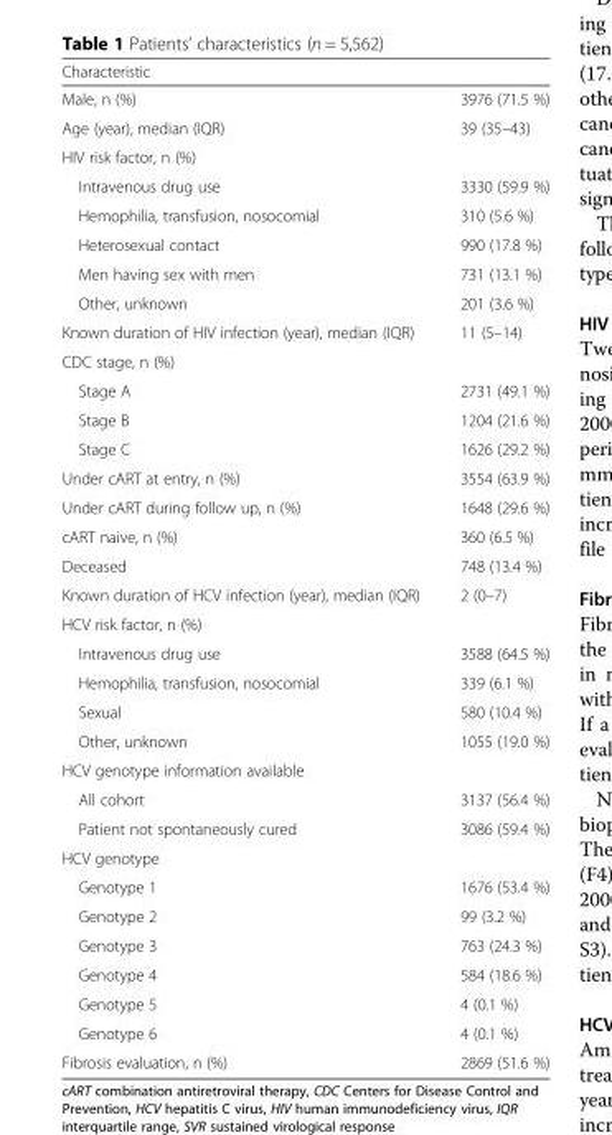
<table><thead><tr><td>Characteristic</td><td></td></tr></thead><tbody><tr><td>Male, n (%)</td><td>3976 (71.5 %)</td></tr><tr><td>Age (year), median (IQR)</td><td>39 (35–43)</td></tr><tr><td colspan="2">HIV risk factor, n (%)</td></tr><tr><td>Intravenous drug use</td><td>3330 (59.9 %)</td></tr><tr><td>Hemophilia, transfusion, nosocomial</td><td>310 (5.6 %)</td></tr><tr><td>Heterosexual contact</td><td>990 (17.8 %)</td></tr><tr><td>Men having sex with men</td><td>731 (13.1 %)</td></tr><tr><td>Other, unknown</td><td>201 (3.6 %)</td></tr><tr><td>Known duration of HIV infection (year), median (IQR)</td><td>11 (5–14)</td></tr><tr><td colspan="2">CDC stage, n (%)</td></tr><tr><td>Stage A</td><td>2731 (49.1 %)</td></tr><tr><td>Stage B</td><td>1204 (21.6 %)</td></tr><tr><td>Stage C</td><td>1626 (29.2 %)</td></tr><tr><td>Under cART at entry, n (%)</td><td>3554 (63.9 %)</td></tr><tr><td>Under cART during follow up, n (%)</td><td>1648 (29.6 %)</td></tr><tr><td>cART naive, n (%)</td><td>360 (6.5 %)</td></tr><tr><td>Deceased</td><td>748 (13.4 %)</td></tr><tr><td>Known duration of HCV infection (year), median (IQR)</td><td>2 (0–7)</td></tr><tr><td colspan="2">HCV risk factor, n (%)</td></tr><tr><td>Intravenous drug use</td><td>3588 (64.5 %)</td></tr><tr><td>Hemophilia, transfusion, nosocomial</td><td>339 (6.1 %)</td></tr><tr><td>Sexual</td><td>580 (10.4 %)</td></tr><tr><td>Other, unknown</td><td>1055 (19.0 %)</td></tr><tr><td colspan="2">HCV genotype information available</td></tr><tr><td>All cohort</td><td>3137 (56.4 %)</td></tr><tr><td>Patient not spontaneously cured</td><td>3086 (59.4 %)</td></tr><tr><td colspan="2">HCV genotype</td></tr><tr><td>Genotype 1</td><td>1676 (53.4 %)</td></tr><tr><td>Genotype 2</td><td>99 (3.2 %)</td></tr><tr><td>Genotype 3</td><td>763 (24.3 %)</td></tr><tr><td>Genotype 4</td><td>584 (18.6 %)</td></tr><tr><td>Genotype 5</td><td>4 (0.1 %)</td></tr><tr><td>Genotype 6</td><td>4 (0.1 %)</td></tr><tr><td>Fibrosis evaluation, n (%)</td><td>2869 (51.6 %)</td></tr></tbody></table>